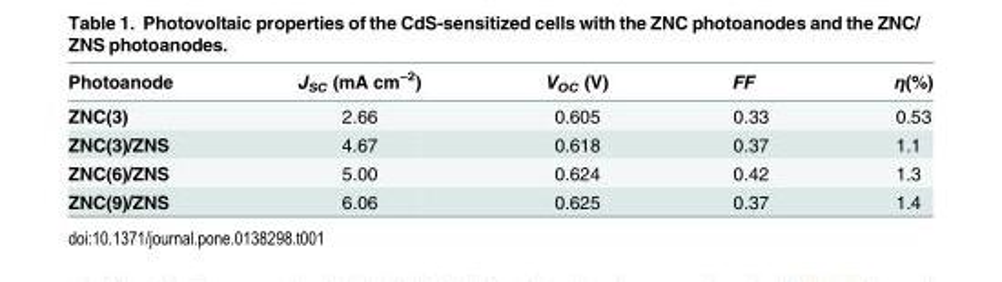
<table><thead><tr><td>Photoanode</td><td>J<sub>SC</sub> (mA cm<sup>−2</sup>)</td><td>V<sub>OC</sub> (V)</td><td>FF</td><td>η(%)</td></tr></thead><tbody><tr><td>ZNC(3)</td><td>2.66</td><td>0.605</td><td>0.33</td><td>0.53</td></tr><tr><td>ZNC(3)/ZNS</td><td>4.67</td><td>0.618</td><td>0.37</td><td>1.1</td></tr><tr><td>ZNC(6)/ZNS</td><td>5.00</td><td>0.624</td><td>0.42</td><td>1.3</td></tr><tr><td>ZNC(9)/ZNS</td><td>6.06</td><td>0.625</td><td>0.37</td><td>1.4</td></tr></tbody></table>